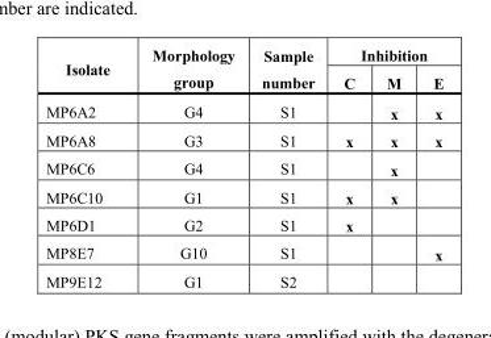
<table><thead><tr><td rowspan="2">Isolate</td><td rowspan="2">Morphology group</td><td rowspan="2">Sample number</td><td colspan="3">Inhibition</td></tr><tr><td>C</td><td>M</td><td>E</td></tr></thead><tbody><tr><td>MP6A2</td><td>G4</td><td>S1</td><td></td><td>x</td><td>x</td></tr><tr><td>MP6A8</td><td>G3</td><td>S1</td><td>x</td><td>x</td><td>x</td></tr><tr><td>MP6C6</td><td>G4</td><td>S1</td><td></td><td>x</td><td></td></tr><tr><td>MP6C10</td><td>G1</td><td>S1</td><td>x</td><td>x</td><td></td></tr><tr><td>MP6D1</td><td>G2</td><td>S1</td><td>x</td><td></td><td></td></tr><tr><td>MP8E7</td><td>G10</td><td>S1</td><td></td><td></td><td>x</td></tr><tr><td>MP9E12</td><td>G1</td><td>S2</td><td></td><td></td><td></td></tr></tbody></table>